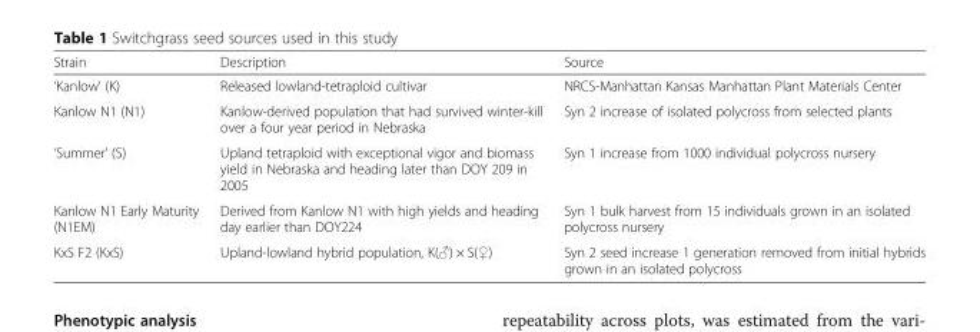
<table><thead><tr><td>Strain</td><td>Description</td><td>Source</td></tr></thead><tbody><tr><td>‘Kanlow’ (K)</td><td>Released lowland-tetraploid cultivar</td><td>NRCS-Manhattan Kansas Manhattan Plant Materials Center</td></tr><tr><td>Kanlow N1 (N1)</td><td>Kanlow-derived population that had survived winter-kill over a four year period in Nebraska</td><td>Syn 2 increase of isolated polycross from selected plants</td></tr><tr><td>‘Summer’ (S)</td><td>Upland tetraploid with exceptional vigor and biomass yield in Nebraska and heading later than DOY 209 in 2005</td><td>Syn 1 increase from 1000 individual polycross nursery</td></tr><tr><td>Kanlow N1 Early Maturity (N1EM)</td><td>Derived from Kanlow N1 with high yields and heading day earlier than DOY224</td><td>Syn 1 bulk harvest from 15 individuals grown in an isolated polycross nursery</td></tr><tr><td>KxS F2 (KxS)</td><td>Upland-lowland hybrid population, K(♂) × S(♀)</td><td>Syn 2 seed increase 1 generation removed from initial hybrids grown in an isolated polycross</td></tr></tbody></table>